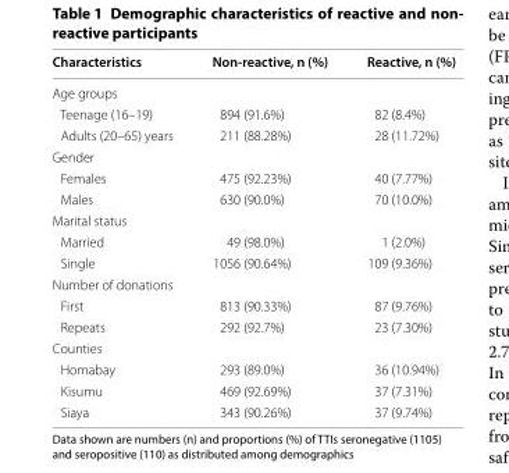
<table><thead><tr><td>Characteristics</td><td>Non-reactive, n (%)</td><td>Reactive, n (%)</td></tr></thead><tbody><tr><td colspan="3">Age groups</td></tr><tr><td>Teenage (16–19)</td><td>894 (91.6%)</td><td>82 (8.4%)</td></tr><tr><td>Adults (20–65) years</td><td>211 (88.28%)</td><td>28 (11.72%)</td></tr><tr><td colspan="3">Gender</td></tr><tr><td>Females</td><td>475 (92.23%)</td><td>40 (7.77%)</td></tr><tr><td>Males</td><td>630 (90.0%)</td><td>70 (10.0%)</td></tr><tr><td colspan="3">Marital status</td></tr><tr><td>Married</td><td>49 (98.0%)</td><td>1 (2.0%)</td></tr><tr><td>Single</td><td>1056 (90.64%)</td><td>109 (9.36%)</td></tr><tr><td colspan="3">Number of donations</td></tr><tr><td>First</td><td>813 (90.33%)</td><td>87 (9.76%)</td></tr><tr><td>Repeats</td><td>292 (92.7%)</td><td>23 (7.30%)</td></tr><tr><td colspan="3">Counties</td></tr><tr><td>Homabay</td><td>293 (89.0%)</td><td>36 (10.94%)</td></tr><tr><td>Kisumu</td><td>469 (92.69%)</td><td>37 (7.31%)</td></tr><tr><td>Siaya</td><td>343 (90.26%)</td><td>37 (9.74%)</td></tr></tbody></table>